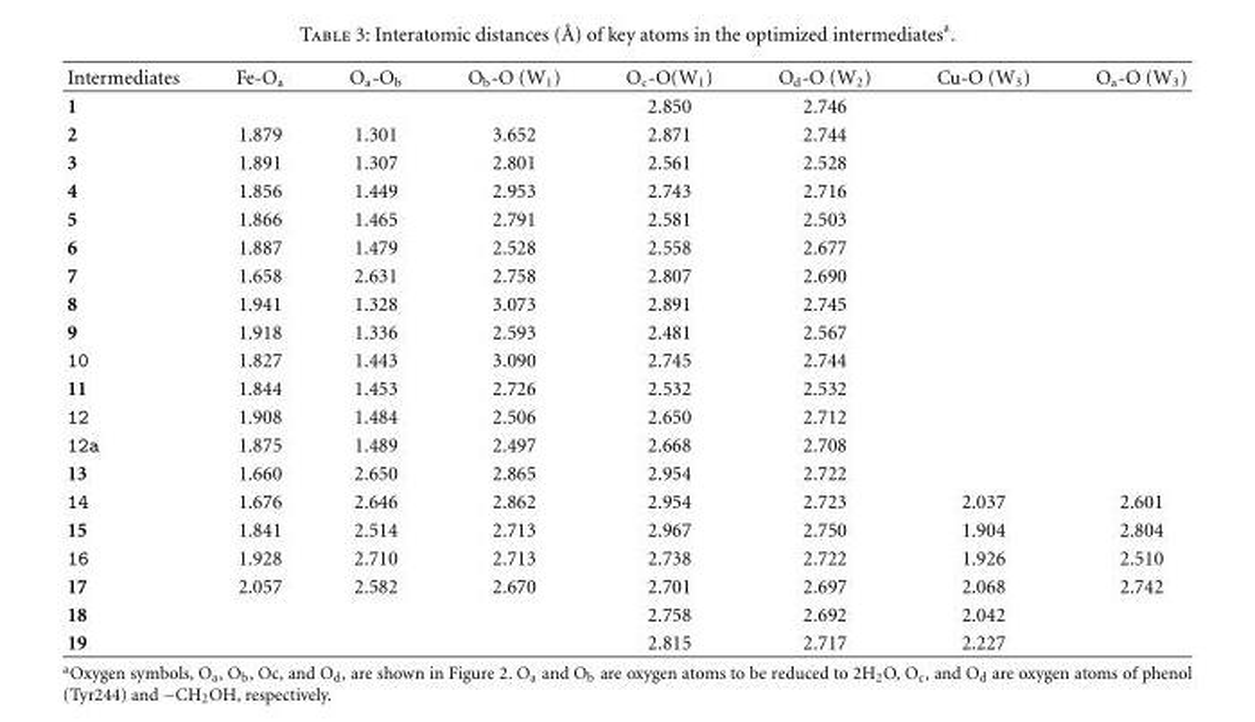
<table><thead><tr><td>Intermediates</td><td>Fe-O<sub>a</sub></td><td>O<sub>a</sub>-O<sub>b</sub></td><td>O<sub>b</sub>-O (W<sub>1</sub>)</td><td>O<sub>c</sub>-O(W<sub>1</sub>)</td><td>O<sub>d</sub>-O (W<sub>2</sub>)</td><td>Cu-O (W<sub>3</sub>)</td><td>O<sub>a</sub>-O (W<sub>3</sub>)</td></tr></thead><tbody><tr><td>1</td><td></td><td></td><td></td><td>2.850</td><td>2.746</td><td></td><td></td></tr><tr><td>2</td><td>1.879</td><td>1.301</td><td>3.652</td><td>2.871</td><td>2.744</td><td></td><td></td></tr><tr><td>3</td><td>1.891</td><td>1.307</td><td>2.801</td><td>2.561</td><td>2.528</td><td></td><td></td></tr><tr><td>4</td><td>1.856</td><td>1.449</td><td>2.953</td><td>2.743</td><td>2.716</td><td></td><td></td></tr><tr><td>5</td><td>1.866</td><td>1.465</td><td>2.791</td><td>2.581</td><td>2.503</td><td></td><td></td></tr><tr><td>6</td><td>1.887</td><td>1.479</td><td>2.528</td><td>2.558</td><td>2.677</td><td></td><td></td></tr><tr><td>7</td><td>1.658</td><td>2.631</td><td>2.758</td><td>2.807</td><td>2.690</td><td></td><td></td></tr><tr><td>8</td><td>1.941</td><td>1.328</td><td>3.073</td><td>2.891</td><td>2.745</td><td></td><td></td></tr><tr><td>9</td><td>1.918</td><td>1.336</td><td>2.593</td><td>2.481</td><td>2.567</td><td></td><td></td></tr><tr><td>10</td><td>1.827</td><td>1.443</td><td>3.090</td><td>2.745</td><td>2.744</td><td></td><td></td></tr><tr><td>11</td><td>1.844</td><td>1.453</td><td>2.726</td><td>2.532</td><td>2.532</td><td></td><td></td></tr><tr><td>12</td><td>1.908</td><td>1.484</td><td>2.506</td><td>2.650</td><td>2.712</td><td></td><td></td></tr><tr><td>12a</td><td>1.875</td><td>1.489</td><td>2.497</td><td>2.668</td><td>2.708</td><td></td><td></td></tr><tr><td>13</td><td>1.660</td><td>2.650</td><td>2.865</td><td>2.954</td><td>2.722</td><td></td><td></td></tr><tr><td>14</td><td>1.676</td><td>2.646</td><td>2.862</td><td>2.954</td><td>2.723</td><td>2.037</td><td>2.601</td></tr><tr><td>15</td><td>1.841</td><td>2.514</td><td>2.713</td><td>2.967</td><td>2.750</td><td>1.904</td><td>2.804</td></tr><tr><td>16</td><td>1.928</td><td>2.710</td><td>2.713</td><td>2.738</td><td>2.722</td><td>1.926</td><td>2.510</td></tr><tr><td>17</td><td>2.057</td><td>2.582</td><td>2.670</td><td>2.701</td><td>2.697</td><td>2.068</td><td>2.742</td></tr><tr><td>18</td><td></td><td></td><td></td><td>2.758</td><td>2.692</td><td>2.042</td><td></td></tr><tr><td>19</td><td></td><td></td><td></td><td>2.815</td><td>2.717</td><td>2.227</td><td></td></tr></tbody></table>